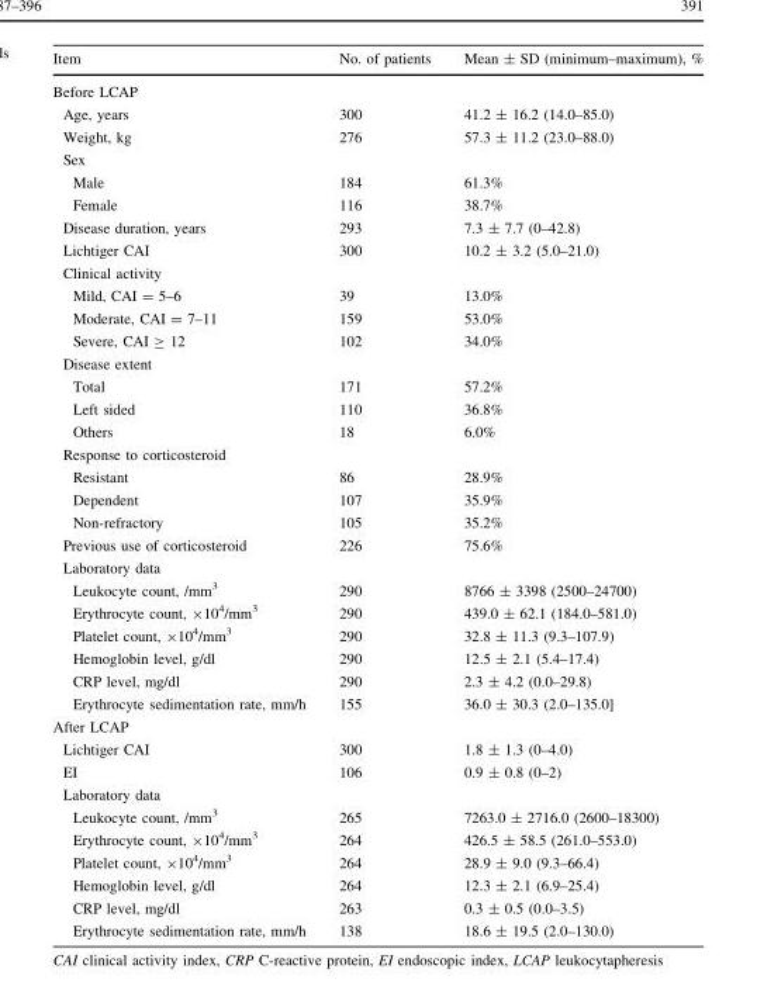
<table><thead><tr><td>Item</td><td>No. of patients</td><td>Mean ± SD (minimum–maximum), %</td></tr></thead><tbody><tr><td colspan="3">Before LCAP</td></tr><tr><td>Age, years</td><td>300</td><td>41.2 ± 16.2 (14.0–85.0)</td></tr><tr><td>Weight, kg</td><td>276</td><td>57.3 ± 11.2 (23.0–88.0)</td></tr><tr><td colspan="3">Sex</td></tr><tr><td>Male</td><td>184</td><td>61.3%</td></tr><tr><td>Female</td><td>116</td><td>38.7%</td></tr><tr><td>Disease duration, years</td><td>293</td><td>7.3 ± 7.7 (0–42.8)</td></tr><tr><td>Lichtiger CAI</td><td>300</td><td>10.2 ± 3.2 (5.0–21.0)</td></tr><tr><td colspan="3">Clinical activity</td></tr><tr><td>Mild, CAI = 5–6</td><td>39</td><td>13.0%</td></tr><tr><td>Moderate, CAI = 7–11</td><td>159</td><td>53.0%</td></tr><tr><td>Severe, CAI ≥ 12</td><td>102</td><td>34.0%</td></tr><tr><td colspan="3">Disease extent</td></tr><tr><td>Total</td><td>171</td><td>57.2%</td></tr><tr><td>Left sided</td><td>110</td><td>36.8%</td></tr><tr><td>Others</td><td>18</td><td>6.0%</td></tr><tr><td colspan="3">Response to corticosteroid</td></tr><tr><td>Resistant</td><td>86</td><td>28.9%</td></tr><tr><td>Dependent</td><td>107</td><td>35.9%</td></tr><tr><td>Non-refractory</td><td>105</td><td>35.2%</td></tr><tr><td>Previous use of corticosteroid</td><td>226</td><td>75.6%</td></tr><tr><td colspan="3">Laboratory data</td></tr><tr><td>Leukocyte count, /mm<sup>3</sup></td><td>290</td><td>8766 ± 3398 (2500–24700)</td></tr><tr><td>Erythrocyte count, ×10<sup>4</sup>/mm<sup>3</sup></td><td>290</td><td>439.0 ± 62.1 (184.0–581.0)</td></tr><tr><td>Platelet count, ×10<sup>4</sup>/mm<sup>3</sup></td><td>290</td><td>32.8 ± 11.3 (9.3–107.9)</td></tr><tr><td>Hemoglobin level, g/dl</td><td>290</td><td>12.5 ± 2.1 (5.4–17.4)</td></tr><tr><td>CRP level, mg/dl</td><td>290</td><td>2.3 ± 4.2 (0.0–29.8)</td></tr><tr><td>Erythrocyte sedimentation rate, mm/h</td><td>155</td><td>36.0 ± 30.3 (2.0–135.0]</td></tr><tr><td colspan="3">After LCAP</td></tr><tr><td>Lichtiger CAI</td><td>300</td><td>1.8 ± 1.3 (0–4.0)</td></tr><tr><td>EI</td><td>106</td><td>0.9 ± 0.8 (0–2)</td></tr><tr><td colspan="3">Laboratory data</td></tr><tr><td>Leukocyte count, /mm<sup>3</sup></td><td>265</td><td>7263.0 ± 2716.0 (2600–18300)</td></tr><tr><td>Erythrocyte count, ×10<sup>4</sup>/mm<sup>3</sup></td><td>264</td><td>426.5 ± 58.5 (261.0–553.0)</td></tr><tr><td>Platelet count, ×10<sup>4</sup>/mm<sup>3</sup></td><td>264</td><td>28.9 ± 9.0 (9.3–66.4)</td></tr><tr><td>Hemoglobin level, g/dl</td><td>264</td><td>12.3 ± 2.1 (6.9–25.4)</td></tr><tr><td>CRP level, mg/dl</td><td>263</td><td>0.3 ± 0.5 (0.0–3.5)</td></tr><tr><td>Erythrocyte sedimentation rate, mm/h</td><td>138</td><td>18.6 ± 19.5 (2.0–130.0)</td></tr></tbody></table>